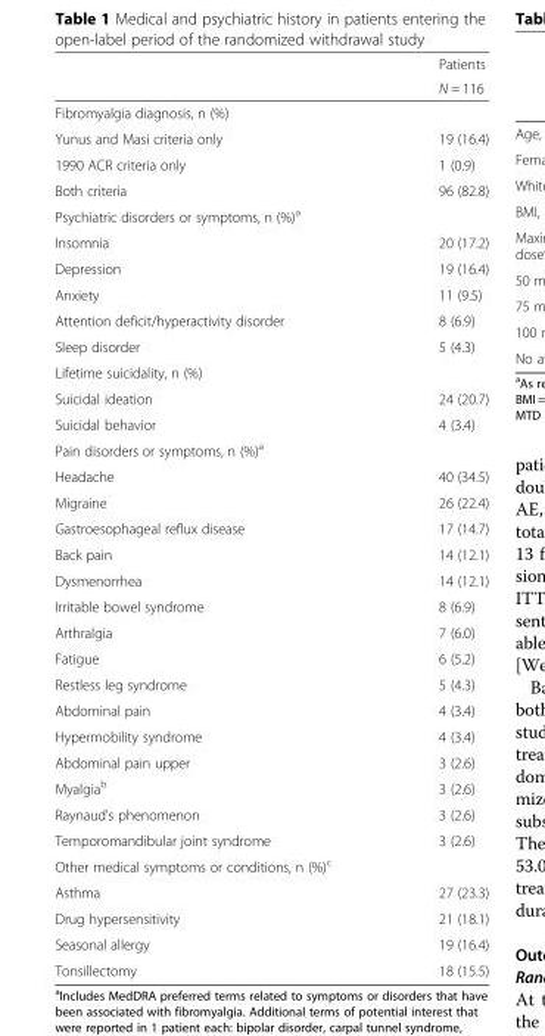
<table><thead><tr><td rowspan="2"></td><td rowspan="2">Patients N = 116</td></tr><tr></tr></thead><tbody><tr><td colspan="2">Fibromyalgia diagnosis, n (%)</td></tr><tr><td>Yunus and Masi criteria only</td><td>19 (16.4)</td></tr><tr><td>1990 ACR criteria only</td><td>1 (0.9)</td></tr><tr><td>Both criteria</td><td>96 (82.8)</td></tr><tr><td colspan="2">Psychiatric disorders or symptoms, n (%)<sup>a</sup></td></tr><tr><td>Insomnia</td><td>20 (17.2)</td></tr><tr><td>Depression</td><td>19 (16.4)</td></tr><tr><td>Anxiety</td><td>11 (9.5)</td></tr><tr><td>Attention deficit/hyperactivity disorder</td><td>8 (6.9)</td></tr><tr><td>Sleep disorder</td><td>5 (4.3)</td></tr><tr><td colspan="2">Lifetime suicidality, n (%)</td></tr><tr><td>Suicidal ideation</td><td>24 (20.7)</td></tr><tr><td>Suicidal behavior</td><td>4 (3.4)</td></tr><tr><td colspan="2">Pain disorders or symptoms, n (%)<sup>a</sup></td></tr><tr><td>Headache</td><td>40 (34.5)</td></tr><tr><td>Migraine</td><td>26 (22.4)</td></tr><tr><td>Gastroesophageal reflux disease</td><td>17 (14.7)</td></tr><tr><td>Back pain</td><td>14 (12.1)</td></tr><tr><td>Dysmenorrhea</td><td>14 (12.1)</td></tr><tr><td>Irritable bowel syndrome</td><td>8 (6.9)</td></tr><tr><td>Arthralgia</td><td>7 (6.0)</td></tr><tr><td>Fatigue</td><td>6 (5.2)</td></tr><tr><td>Restless leg syndrome</td><td>5 (4.3)</td></tr><tr><td>Abdominal pain</td><td>4 (3.4)</td></tr><tr><td>Hypermobility syndrome</td><td>4 (3.4)</td></tr><tr><td>Abdominal pain upper</td><td>3 (2.6)</td></tr><tr><td>Myalgia<sup>b</sup></td><td>3 (2.6)</td></tr><tr><td>Raynaud’s phenomenon</td><td>3 (2.6)</td></tr><tr><td>Temporomandibular joint syndrome</td><td>3 (2.6)</td></tr><tr><td colspan="2">Other medical symptoms or conditions, n (%)<sup>c</sup></td></tr><tr><td>Asthma</td><td>27 (23.3)</td></tr><tr><td>Drug hypersensitivity</td><td>21 (18.1)</td></tr><tr><td>Seasonal allergy</td><td>19 (16.4)</td></tr><tr><td>Tonsillectomy</td><td>18 (15.5)</td></tr></tbody></table>